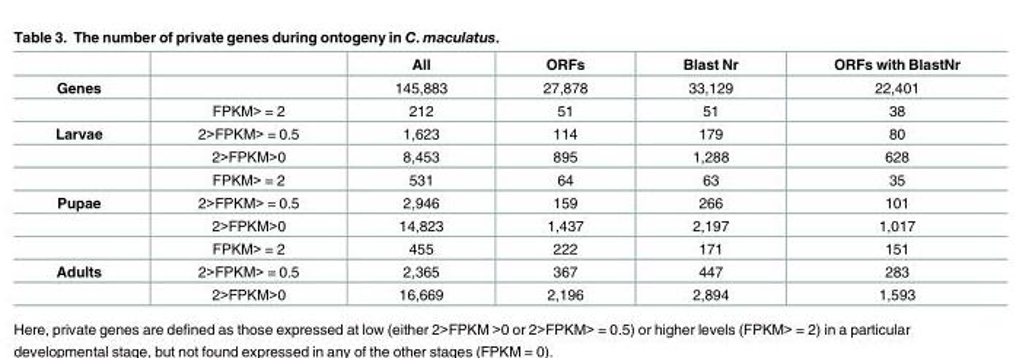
<table><thead><tr><td></td><td></td><td>All</td><td>ORFs</td><td>Blast Nr</td><td>ORFs with BlastNr</td></tr></thead><tbody><tr><td rowspan="2">Genes</td><td></td><td>145,883</td><td>27,878</td><td>33,129</td><td>22,401</td></tr><tr><td>FPKM&gt; = 2</td><td>212</td><td>51</td><td>51</td><td>38</td></tr><tr><td rowspan="3">Larvae</td><td>2&gt;FPKM&gt; = 0.5</td><td>1,623</td><td>114</td><td>179</td><td>80</td></tr><tr><td>2&gt;FPKM&gt;0</td><td>8,453</td><td>895</td><td>1,288</td><td>628</td></tr><tr><td>FPKM&gt; = 2</td><td>531</td><td>64</td><td>63</td><td>35</td></tr><tr><td rowspan="3">Pupae</td><td>2&gt;FPKM&gt; = 0.5</td><td>2,946</td><td>159</td><td>266</td><td>101</td></tr><tr><td>2&gt;FPKM&gt;0</td><td>14,823</td><td>1,437</td><td>2,197</td><td>1,017</td></tr><tr><td>FPKM&gt; = 2</td><td>455</td><td>222</td><td>171</td><td>151</td></tr><tr><td rowspan="2">Adults</td><td>2&gt;FPKM&gt; = 0.5</td><td>2,365</td><td>367</td><td>447</td><td>283</td></tr><tr><td>2&gt;FPKM&gt;0</td><td>16,669</td><td>2,196</td><td>2,894</td><td>1,593</td></tr></tbody></table>